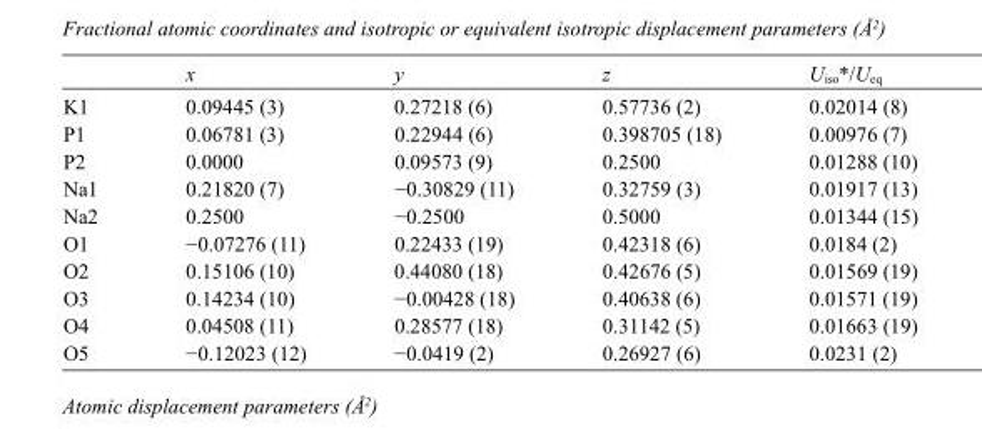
<table><thead><tr><td></td><td>x</td><td>y</td><td>z</td><td>U<sub>iso</sub>*/U<sub>eq</sub></td></tr></thead><tbody><tr><td>K1</td><td>0.09445 (3)</td><td>0.27218 (6)</td><td>0.57736 (2)</td><td>0.02014 (8)</td></tr><tr><td>P1</td><td>0.06781 (3)</td><td>0.22944 (6)</td><td>0.398705 (18)</td><td>0.00976 (7)</td></tr><tr><td>P2</td><td>0.0000</td><td>0.09573 (9)</td><td>0.2500</td><td>0.01288 (10)</td></tr><tr><td>Na1</td><td>0.21820 (7)</td><td>−0.30829 (11)</td><td>0.32759 (3)</td><td>0.01917 (13)</td></tr><tr><td>Na2</td><td>0.2500</td><td>−0.2500</td><td>0.5000</td><td>0.01344 (15)</td></tr><tr><td>O1</td><td>−0.07276 (11)</td><td>0.22433 (19)</td><td>0.42318 (6)</td><td>0.0184 (2)</td></tr><tr><td>O2</td><td>0.15106 (10)</td><td>0.44080 (18)</td><td>0.42676 (5)</td><td>0.01569 (19)</td></tr><tr><td>O3</td><td>0.14234 (10)</td><td>−0.00428 (18)</td><td>0.40638 (6)</td><td>0.01571 (19)</td></tr><tr><td>O4</td><td>0.04508 (11)</td><td>0.28577 (18)</td><td>0.31142 (5)</td><td>0.01663 (19)</td></tr><tr><td>O5</td><td>−0.12023 (12)</td><td>−0.0419 (2)</td><td>0.26927 (6)</td><td>0.0231 (2)</td></tr></tbody></table>